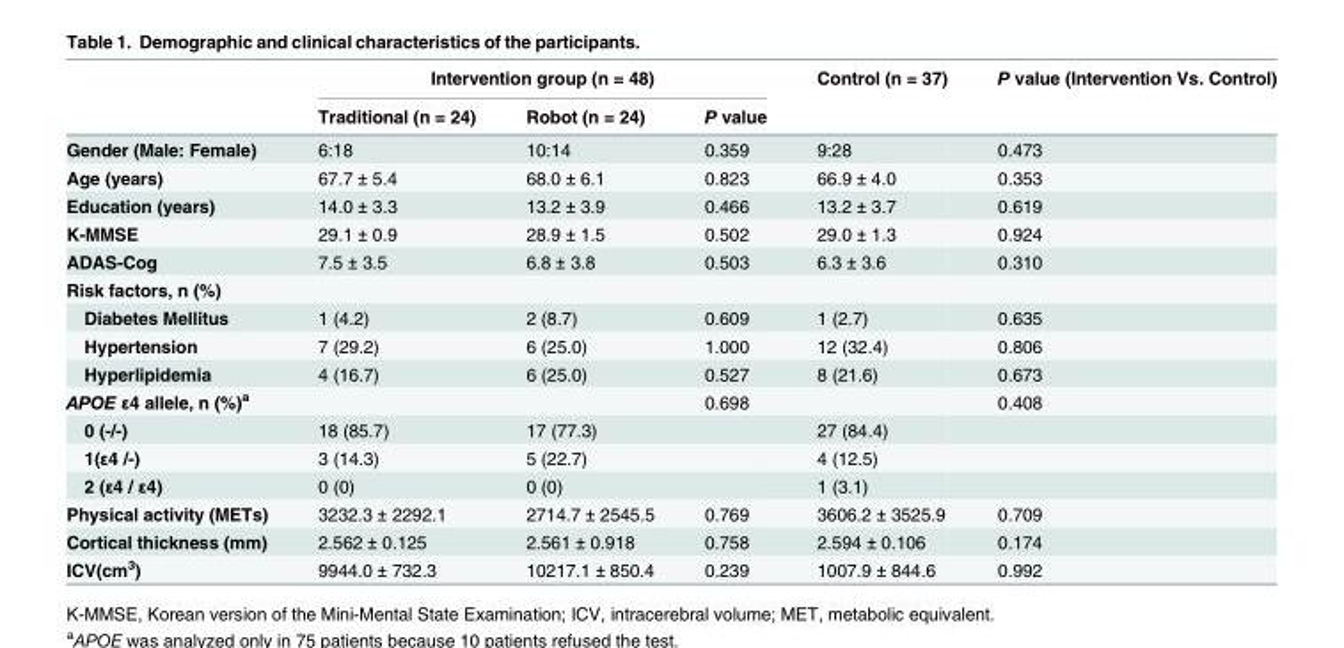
<table><thead><tr><td rowspan="2"></td><td colspan="3">Intervention group (n = 48)</td><td rowspan="2">Control (n = 37)</td><td rowspan="2">P value (Intervention Vs. Control)</td></tr><tr><td>Traditional (n = 24)</td><td>Robot (n = 24)</td><td>P value</td></tr></thead><tbody><tr><td>Gender (Male: Female)</td><td>6:18</td><td>10:14</td><td>0.359</td><td>9:28</td><td>0.473</td></tr><tr><td>Age (years)</td><td>67.7 ± 5.4</td><td>68.0 ± 6.1</td><td>0.823</td><td>66.9 ± 4.0</td><td>0.353</td></tr><tr><td>Education (years)</td><td>14.0 ± 3.3</td><td>13.2 ± 3.9</td><td>0.466</td><td>13.2 ± 3.7</td><td>0.619</td></tr><tr><td>K-MMSE</td><td>29.1 ± 0.9</td><td>28.9 ± 1.5</td><td>0.502</td><td>29.0 ± 1.3</td><td>0.924</td></tr><tr><td>ADAS-Cog</td><td>7.5 ± 3.5</td><td>6.8 ± 3.8</td><td>0.503</td><td>6.3 ± 3.6</td><td>0.310</td></tr><tr><td colspan="6">Risk factors, n (%)</td></tr><tr><td>Diabetes Mellitus</td><td>1 (4.2)</td><td>2 (8.7)</td><td>0.609</td><td>1 (2.7)</td><td>0.635</td></tr><tr><td>Hypertension</td><td>7 (29.2)</td><td>6 (25.0)</td><td>1.000</td><td>12 (32.4)</td><td>0.806</td></tr><tr><td>Hyperlipidemia</td><td>4 (16.7)</td><td>6 (25.0)</td><td>0.527</td><td>8 (21.6)</td><td>0.673</td></tr><tr><td>APOE ε4 allele, n (%)<sup>a</sup></td><td></td><td></td><td>0.698</td><td></td><td>0.408</td></tr><tr><td>0 (-/-)</td><td>18 (85.7)</td><td>17 (77.3)</td><td></td><td>27 (84.4)</td><td></td></tr><tr><td>1(ε4 /-)</td><td>3 (14.3)</td><td>5 (22.7)</td><td></td><td>4 (12.5)</td><td></td></tr><tr><td>2 (ε4 / ε4)</td><td>0 (0)</td><td>0 (0)</td><td></td><td>1 (3.1)</td><td></td></tr><tr><td>Physical activity (METs)</td><td>3232.3 ± 2292.1</td><td>2714.7 ± 2545.5</td><td>0.769</td><td>3606.2 ± 3525.9</td><td>0.709</td></tr><tr><td>Cortical thickness (mm)</td><td>2.562 ± 0.125</td><td>2.561 ± 0.918</td><td>0.758</td><td>2.594 ± 0.106</td><td>0.174</td></tr><tr><td>ICV(cm<sup>3</sup>)</td><td>9944.0 ± 732.3</td><td>10217.1 ± 850.4</td><td>0.239</td><td>1007.9 ± 844.6</td><td>0.992</td></tr></tbody></table>